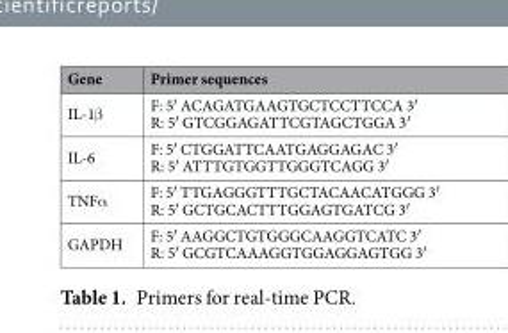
<table><thead><tr><td>Gene</td><td>Primer sequences</td></tr></thead><tbody><tr><td>IL-1β</td><td>F: 5′ ACAGATGAAGTGCTCCTTCCA 3′ R: 5′ GTCGGAGATTCGTAGCTGGA 3′</td></tr><tr><td>IL-6</td><td>F: 5′ CTGGATTCAATGAGGAGAC 3′ R: 5′ ATTTGTGGTTGGGTCAGG 3′</td></tr><tr><td>TNFα</td><td>F: 5′ TTGAGGGTTTGCTACAACATGGG 3′ R: 5′ GCTGCACTTTGGAGTGATCG 3′</td></tr><tr><td>GAPDH</td><td>F: 5′ AAGGCTGTGGGCAAGGTCATC 3′ R: 5′ GCGTCAAAGGTGGAGGAGTGG 3′</td></tr></tbody></table>